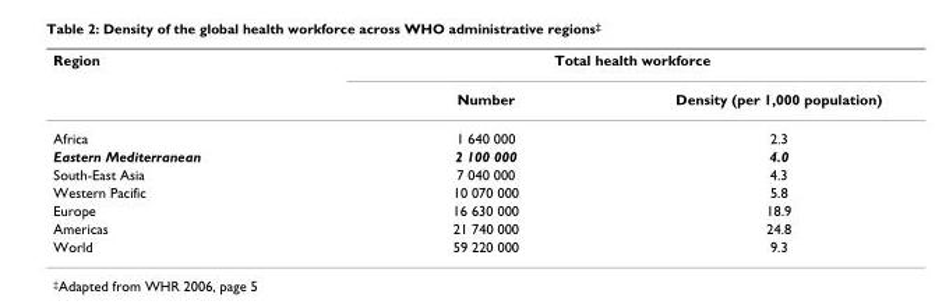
<table><thead><tr><td rowspan="2">Region</td><td colspan="2">Total health workforce</td></tr><tr><td>Number</td><td>Density (per 1,000 population)</td></tr></thead><tbody><tr><td>Africa</td><td>1 640 000</td><td>2.3</td></tr><tr><td>Eastern Mediterranean</td><td>2 100 000</td><td>4.0</td></tr><tr><td>South-East Asia</td><td>7 040 000</td><td>4.3</td></tr><tr><td>Western Pacific</td><td>10 070 000</td><td>5.8</td></tr><tr><td>Europe</td><td>16 630 000</td><td>18.9</td></tr><tr><td>Americas</td><td>21 740 000</td><td>24.8</td></tr><tr><td>World</td><td>59 220 000</td><td>9.3</td></tr></tbody></table>